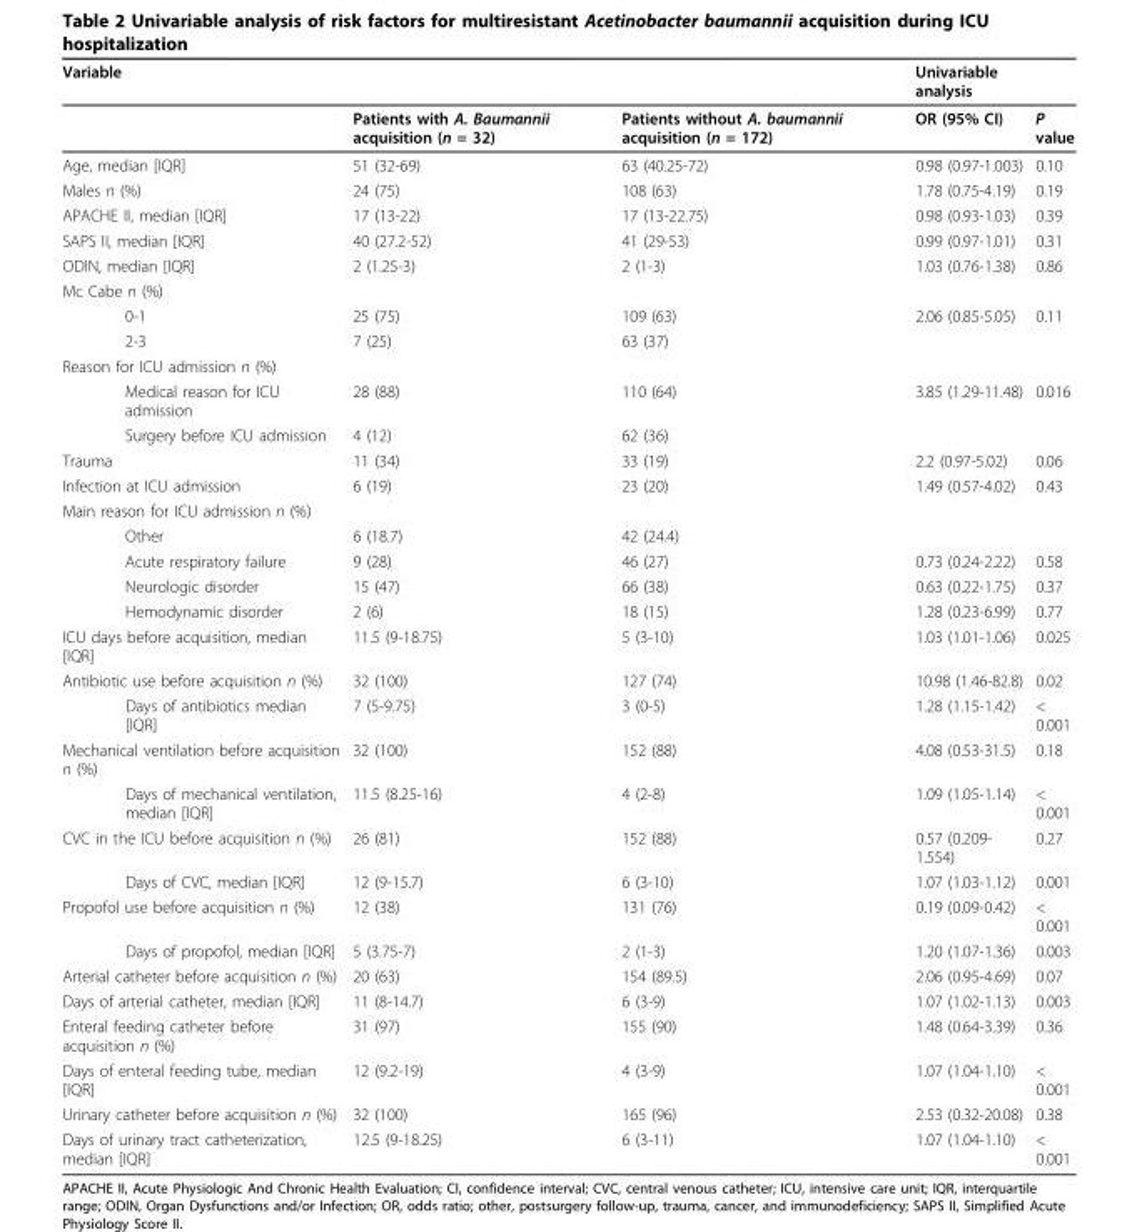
<table><thead><tr><td>Variable</td><td></td><td></td><td>Univariable analysis</td><td></td></tr></thead><tbody><tr><td></td><td>Patients with A. Baumannii acquisition (n = 32)</td><td>Patients without A. baumannii acquisition (n = 172)</td><td>OR (95% CI)</td><td>P value</td></tr><tr><td>Age, median [IQR]</td><td>51 (32-69)</td><td>63 (40.25-72)</td><td>0.98 (0.97-1.003)</td><td>0.10</td></tr><tr><td>Males n (%)</td><td>24 (75)</td><td>108 (63)</td><td>1.78 (0.75-4.19)</td><td>0.19</td></tr><tr><td>APACHE II, median [IQR]</td><td>17 (13-22)</td><td>17 (13-22.75)</td><td>0.98 (0.93-1.03)</td><td>0.39</td></tr><tr><td>SAPS II, median [IQR]</td><td>40 (27.2-52)</td><td>41 (29-53)</td><td>0.99 (0.97-1.01)</td><td>0.31</td></tr><tr><td>ODIN, median [IQR]</td><td>2 (1.25-3)</td><td>2 (1-3)</td><td>1.03 (0.76-1.38)</td><td>0.86</td></tr><tr><td colspan="5">Mc Cabe n (%)</td></tr><tr><td>0-1</td><td>25 (75)</td><td>109 (63)</td><td>2.06 (0.85-5.05)</td><td>0.11</td></tr><tr><td>2-3</td><td>7 (25)</td><td>63 (37)</td><td></td><td></td></tr><tr><td colspan="5">Reason for ICU admission n (%)</td></tr><tr><td>Medical reason for ICU admission</td><td>28 (88)</td><td>110 (64)</td><td>3.85 (1.29-11.48)</td><td>0.016</td></tr><tr><td>Surgery before ICU admission</td><td>4 (12)</td><td>62 (36)</td><td></td><td></td></tr><tr><td>Trauma</td><td>11 (34)</td><td>33 (19)</td><td>2.2 (0.97-5.02)</td><td>0.06</td></tr><tr><td>Infection at ICU admission</td><td>6 (19)</td><td>23 (20)</td><td>1.49 (0.57-4.02)</td><td>0.43</td></tr><tr><td colspan="5">Main reason for ICU admission n (%)</td></tr><tr><td>Other</td><td>6 (18.7)</td><td>42 (24.4)</td><td></td><td></td></tr><tr><td>Acute respiratory failure</td><td>9 (28)</td><td>46 (27)</td><td>0.73 (0.24-2.22)</td><td>0.58</td></tr><tr><td>Neurologic disorder</td><td>15 (47)</td><td>66 (38)</td><td>0.63 (0.22-1.75)</td><td>0.37</td></tr><tr><td>Hemodynamic disorder</td><td>2 (6)</td><td>18 (15)</td><td>1.28 (0.23-6.99)</td><td>0.77</td></tr><tr><td>ICU days before acquisition, median [IQR]</td><td>11.5 (9-18.75)</td><td>5 (3-10)</td><td>1.03 (1.01-1.06)</td><td>0.025</td></tr><tr><td>Antibiotic use before acquisition n (%)</td><td>32 (100)</td><td>127 (74)</td><td>10.98 (1.46-82.8)</td><td>0.02</td></tr><tr><td>Days of antibiotics median [IQR]</td><td>7 (5-9.75)</td><td>3 (0-5)</td><td>1.28 (1.15-1.42)</td><td>&lt; 0.001</td></tr><tr><td>Mechanical ventilation before acquisition n (%)</td><td>32 (100)</td><td>152 (88)</td><td>4.08 (0.53-31.5)</td><td>0.18</td></tr><tr><td>Days of mechanical ventilation, median [IQR]</td><td>11.5 (8.25-16)</td><td>4 (2-8)</td><td>1.09 (1.05-1.14)</td><td>&lt; 0.001</td></tr><tr><td>CVC in the ICU before acquisition n (%)</td><td>26 (81)</td><td>152 (88)</td><td>0.57 (0.209- 1.554)</td><td>0.27</td></tr><tr><td>Days of CVC, median [IQR]</td><td>12 (9-15.7)</td><td>6 (3-10)</td><td>1.07 (1.03-1.12)</td><td>0.001</td></tr><tr><td>Propofol use before acquisition n (%)</td><td>12 (38)</td><td>131 (76)</td><td>0.19 (0.09-0.42)</td><td>&lt; 0.001</td></tr><tr><td>Days of propofol, median [IQR]</td><td>5 (3.75-7)</td><td>2 (1-3)</td><td>1.20 (1.07-1.36)</td><td>0.003</td></tr><tr><td>Arterial catheter before acquisition n (%)</td><td>20 (63)</td><td>154 (89.5)</td><td>2.06 (0.95-4.69)</td><td>0.07</td></tr><tr><td>Days of arterial catheter, median [IQR]</td><td>11 (8-14.7)</td><td>6 (3-9)</td><td>1.07 (1.02-1.13)</td><td>0.003</td></tr><tr><td>Enteral feeding catheter before acquisition n (%)</td><td>31 (97)</td><td>155 (90)</td><td>1.48 (0.64-3.39)</td><td>0.36</td></tr><tr><td>Days of enteral feeding tube, median [IQR]</td><td>12 (9.2-19)</td><td>4 (3-9)</td><td>1.07 (1.04-1.10)</td><td>&lt; 0.001</td></tr><tr><td>Urinary catheter before acquisition n (%)</td><td>32 (100)</td><td>165 (96)</td><td>2.53 (0.32-20.08)</td><td>0.38</td></tr><tr><td>Days of urinary tract catheterization, median [IQR]</td><td>12.5 (9-18.25)</td><td>6 (3-11)</td><td>1.07 (1.04-1.10)</td><td>&lt; 0.001</td></tr></tbody></table>